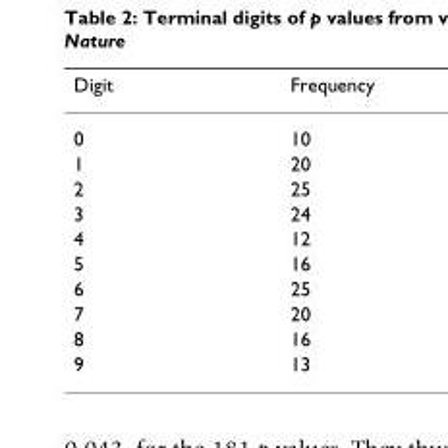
<table><thead><tr><td>Digit</td><td>Frequency</td></tr></thead><tbody><tr><td>0</td><td>10</td></tr><tr><td>1</td><td>20</td></tr><tr><td>2</td><td>25</td></tr><tr><td>3</td><td>24</td></tr><tr><td>4</td><td>12</td></tr><tr><td>5</td><td>16</td></tr><tr><td>6</td><td>25</td></tr><tr><td>7</td><td>20</td></tr><tr><td>8</td><td>16</td></tr><tr><td>9</td><td>13</td></tr></tbody></table>